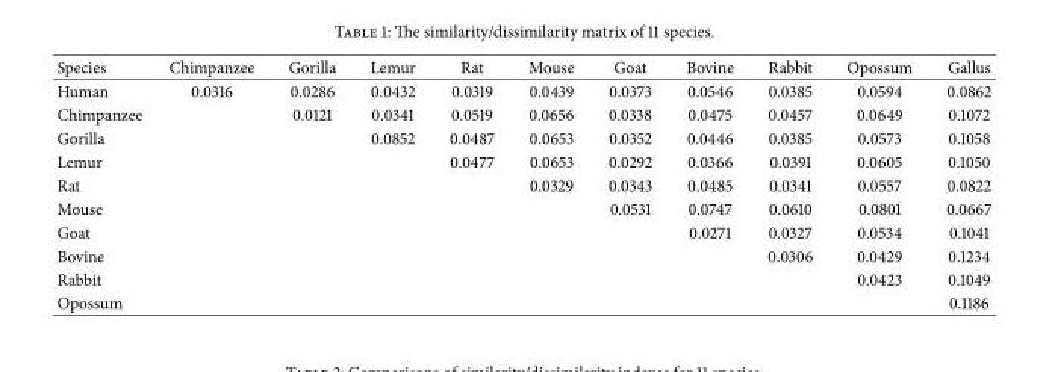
<table><thead><tr><td>Species</td><td>Chimpanzee</td><td>Gorilla</td><td>Lemur</td><td>Rat</td><td>Mouse</td><td>Goat</td><td>Bovine</td><td>Rabbit</td><td>Opossum</td><td>Gallus</td></tr></thead><tbody><tr><td>Human</td><td>0.0316</td><td>0.0286</td><td>0.0432</td><td>0.0319</td><td>0.0439</td><td>0.0373</td><td>0.0546</td><td>0.0385</td><td>0.0594</td><td>0.0862</td></tr><tr><td>Chimpanzee</td><td></td><td>0.0121</td><td>0.0341</td><td>0.0519</td><td>0.0656</td><td>0.0338</td><td>0.0475</td><td>0.0457</td><td>0.0649</td><td>0.1072</td></tr><tr><td>Gorilla</td><td></td><td></td><td>0.0852</td><td>0.0487</td><td>0.0653</td><td>0.0352</td><td>0.0446</td><td>0.0385</td><td>0.0573</td><td>0.1058</td></tr><tr><td>Lemur</td><td></td><td></td><td></td><td>0.0477</td><td>0.0653</td><td>0.0292</td><td>0.0366</td><td>0.0391</td><td>0.0605</td><td>0.1050</td></tr><tr><td>Rat</td><td></td><td></td><td></td><td></td><td>0.0329</td><td>0.0343</td><td>0.0485</td><td>0.0341</td><td>0.0557</td><td>0.0822</td></tr><tr><td>Mouse</td><td></td><td></td><td></td><td></td><td></td><td>0.0531</td><td>0.0747</td><td>0.0610</td><td>0.0801</td><td>0.0667</td></tr><tr><td>Goat</td><td></td><td></td><td></td><td></td><td></td><td></td><td>0.0271</td><td>0.0327</td><td>0.0534</td><td>0.1041</td></tr><tr><td>Bovine</td><td></td><td></td><td></td><td></td><td></td><td></td><td></td><td>0.0306</td><td>0.0429</td><td>0.1234</td></tr><tr><td>Rabbit</td><td></td><td></td><td></td><td></td><td></td><td></td><td></td><td></td><td>0.0423</td><td>0.1049</td></tr><tr><td>Opossum</td><td></td><td></td><td></td><td></td><td></td><td></td><td></td><td></td><td></td><td>0.1186</td></tr></tbody></table>